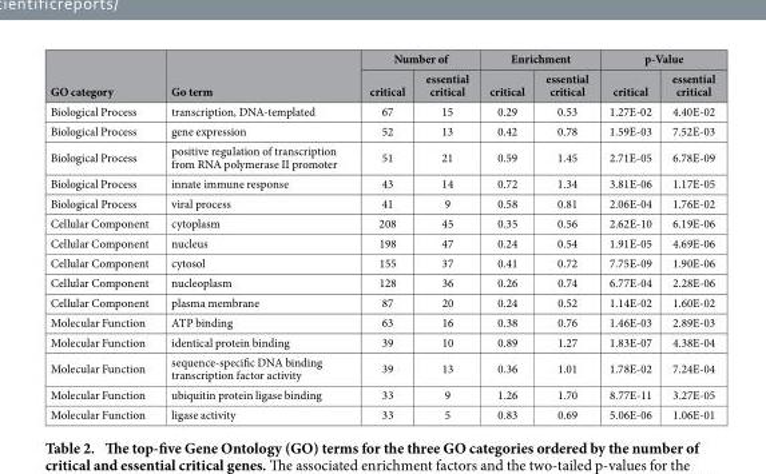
<table><thead><tr><td rowspan="2">GO category</td><td rowspan="2">Go term</td><td colspan="2">Number of</td><td colspan="2">Enrichment</td><td colspan="2">p-Value</td></tr><tr><td>critical</td><td>essential critical</td><td>critical</td><td>essential critical</td><td>critical</td><td>essential critical</td></tr></thead><tbody><tr><td>Biological Process</td><td>transcription, DNA-templated</td><td>67</td><td>15</td><td>0.29</td><td>0.53</td><td>1.27E-02</td><td>4.40E-02</td></tr><tr><td>Biological Process</td><td>gene expression</td><td>52</td><td>13</td><td>0.42</td><td>0.78</td><td>1.59E-03</td><td>7.52E-03</td></tr><tr><td>Biological Process</td><td>positive regulation of transcription from RNA polymerase II promoter</td><td>51</td><td>21</td><td>0.59</td><td>1.45</td><td>2.71E-05</td><td>6.78E-09</td></tr><tr><td>Biological Process</td><td>innate immune response</td><td>43</td><td>14</td><td>0.72</td><td>1.34</td><td>3.81E-06</td><td>1.17E-05</td></tr><tr><td>Biological Process</td><td>viral process</td><td>41</td><td>9</td><td>0.58</td><td>0.81</td><td>2.06E-04</td><td>1.76E-02</td></tr><tr><td>Cellular Component</td><td>cytoplasm</td><td>208</td><td>45</td><td>0.35</td><td>0.56</td><td>2.62E-10</td><td>6.19E-06</td></tr><tr><td>Cellular Component</td><td>nucleus</td><td>198</td><td>47</td><td>0.24</td><td>0.54</td><td>1.91E-05</td><td>4.69E-06</td></tr><tr><td>Cellular Component</td><td>cytosol</td><td>155</td><td>37</td><td>0.41</td><td>0.72</td><td>7.75E-09</td><td>1.90E-06</td></tr><tr><td>Cellular Component</td><td>nucleoplasm</td><td>128</td><td>36</td><td>0.26</td><td>0.74</td><td>6.77E-04</td><td>2.28E-06</td></tr><tr><td>Cellular Component</td><td>plasma membrane</td><td>87</td><td>20</td><td>0.24</td><td>0.52</td><td>1.14E-02</td><td>1.60E-02</td></tr><tr><td>Molecular Function</td><td>ATP binding</td><td>63</td><td>16</td><td>0.38</td><td>0.76</td><td>1.46E-03</td><td>2.89E-03</td></tr><tr><td>Molecular Function</td><td>identical protein binding</td><td>39</td><td>10</td><td>0.89</td><td>1.27</td><td>1.83E-07</td><td>4.38E-04</td></tr><tr><td>Molecular Function</td><td>sequence-specific DNA binding transcription factor activity</td><td>39</td><td>13</td><td>0.36</td><td>1.01</td><td>1.78E-02</td><td>7.24E-04</td></tr><tr><td>Molecular Function</td><td>ubiquitin protein ligase binding</td><td>33</td><td>9</td><td>1.26</td><td>1.70</td><td>8.77E-11</td><td>3.27E-05</td></tr><tr><td>Molecular Function</td><td>ligase activity</td><td>33</td><td>5</td><td>0.83</td><td>0.69</td><td>5.06E-06</td><td>1.06E-01</td></tr></tbody></table>